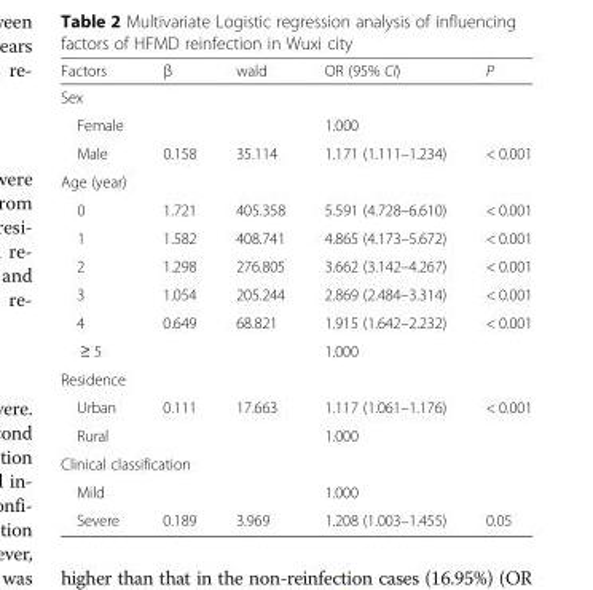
<table><thead><tr><td>Factors</td><td>β</td><td>wald</td><td>OR (95% CI)</td><td>P</td></tr></thead><tbody><tr><td colspan="5">Sex</td></tr><tr><td>Female</td><td></td><td></td><td>1.000</td><td></td></tr><tr><td>Male</td><td>0.158</td><td>35.114</td><td>1.171 (1.111–1.234)</td><td>&lt; 0.001</td></tr><tr><td colspan="5">Age (year)</td></tr><tr><td>0</td><td>1.721</td><td>405.358</td><td>5.591 (4.728–6.610)</td><td>&lt; 0.001</td></tr><tr><td>1</td><td>1.582</td><td>408.741</td><td>4.865 (4.173–5.672)</td><td>&lt; 0.001</td></tr><tr><td>2</td><td>1.298</td><td>276.805</td><td>3.662 (3.142–4.267)</td><td>&lt; 0.001</td></tr><tr><td>3</td><td>1.054</td><td>205.244</td><td>2.869 (2.484–3.314)</td><td>&lt; 0.001</td></tr><tr><td>4</td><td>0.649</td><td>68.821</td><td>1.915 (1.642–2.232)</td><td>&lt; 0.001</td></tr><tr><td>≥ 5</td><td></td><td></td><td>1.000</td><td></td></tr><tr><td colspan="5">Residence</td></tr><tr><td>Urban</td><td>0.111</td><td>17.663</td><td>1.117 (1.061–1.176)</td><td>&lt; 0.001</td></tr><tr><td>Rural</td><td></td><td></td><td>1.000</td><td></td></tr><tr><td colspan="5">Clinical classification</td></tr><tr><td>Mild</td><td></td><td></td><td>1.000</td><td></td></tr><tr><td>Severe</td><td>0.189</td><td>3.969</td><td>1.208 (1.003–1.455)</td><td>0.05</td></tr></tbody></table>